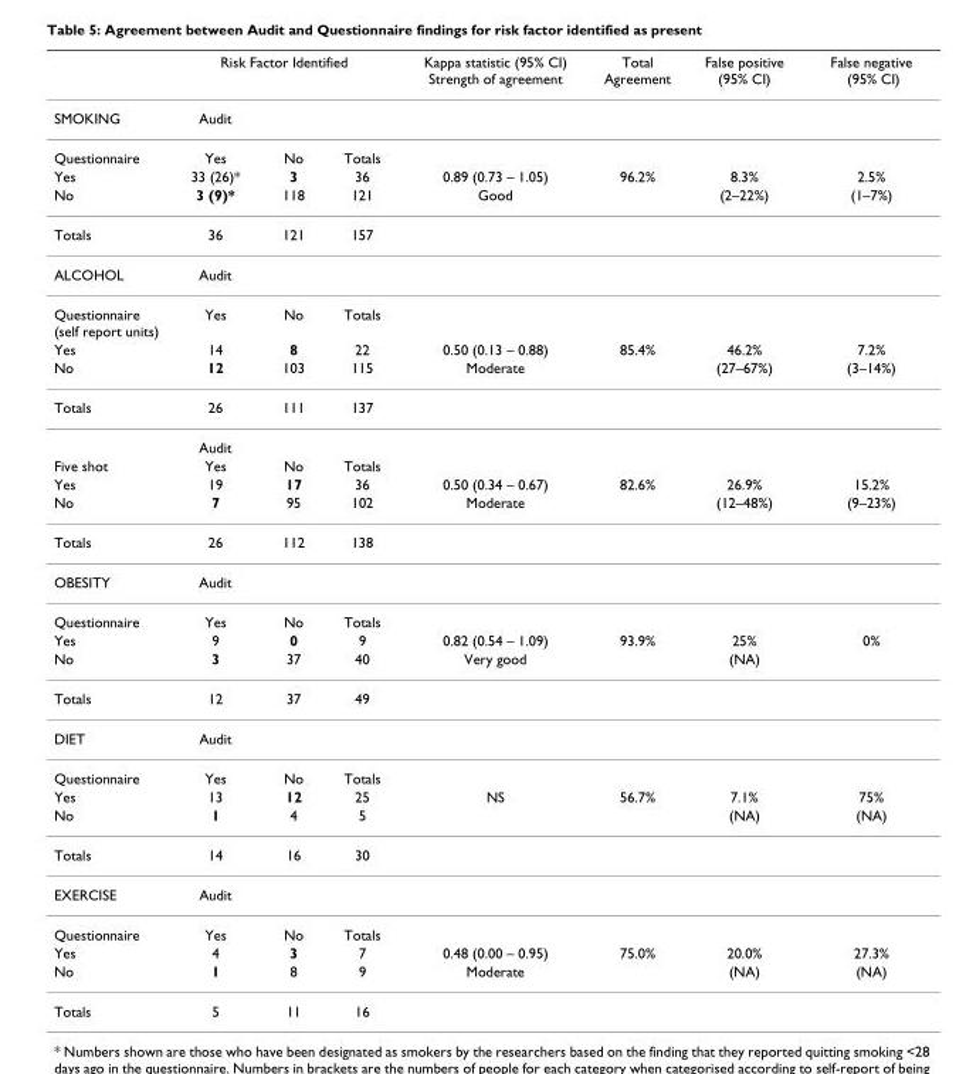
<table><thead><tr><td rowspan="2">SMOKING</td><td colspan="3">Risk Factor Identified</td><td rowspan="2">Kappa statistic (95% CI) Strength of agreement</td><td rowspan="2">Total Agreement</td><td rowspan="2">False positive (95% CI)</td><td rowspan="2">False negative (95% CI)</td></tr><tr><td>Audit</td><td></td><td></td></tr></thead><tbody><tr><td>Questionnaire</td><td>Yes</td><td>No</td><td>Totals</td><td></td><td></td><td></td><td></td></tr><tr><td>Yes</td><td>33 (26)*</td><td>3</td><td>36</td><td>0.89 (0.73 – 1.05)</td><td>96.2%</td><td>8.3%</td><td>2.5%</td></tr><tr><td>No</td><td>3 (9)*</td><td>118</td><td>121</td><td>Good</td><td></td><td>(2–22%)</td><td>(1–7%)</td></tr><tr><td>Totals</td><td>36</td><td>121</td><td>157</td><td></td><td></td><td></td><td></td></tr><tr><td>ALCOHOL</td><td>Audit</td><td></td><td></td><td></td><td></td><td></td><td></td></tr><tr><td>Questionnaire (self report units)</td><td>Yes</td><td>No</td><td>Totals</td><td></td><td></td><td></td><td></td></tr><tr><td>Yes</td><td>14</td><td>8</td><td>22</td><td>0.50 (0.13 – 0.88)</td><td>85.4%</td><td>46.2%</td><td>7.2%</td></tr><tr><td>No</td><td>12</td><td>103</td><td>115</td><td>Moderate</td><td></td><td>(27–67%)</td><td>(3–14%)</td></tr><tr><td rowspan="2">Totals</td><td>26</td><td>111</td><td>137</td><td></td><td></td><td></td><td></td></tr><tr><td>Audit</td><td></td><td></td><td></td><td></td><td></td><td></td></tr><tr><td>Five shot</td><td>Yes</td><td>No</td><td>Totals</td><td></td><td></td><td></td><td></td></tr><tr><td>Yes</td><td>19</td><td>17</td><td>36</td><td>0.50 (0.34 – 0.67)</td><td>82.6%</td><td>26.9%</td><td>15.2%</td></tr><tr><td>No</td><td>7</td><td>95</td><td>102</td><td>Moderate</td><td></td><td>(12–48%)</td><td>(9–23%)</td></tr><tr><td>Totals</td><td>26</td><td>112</td><td>138</td><td></td><td></td><td></td><td></td></tr><tr><td>OBESITY</td><td>Audit</td><td></td><td></td><td></td><td></td><td></td><td></td></tr><tr><td>Questionnaire</td><td>Yes</td><td>No</td><td>Totals</td><td></td><td></td><td></td><td></td></tr><tr><td>Yes</td><td>9</td><td>0</td><td>9</td><td>0.82 (0.54 – 1.09)</td><td>93.9%</td><td>25%</td><td>0%</td></tr><tr><td>No</td><td>3</td><td>37</td><td>40</td><td>Very good</td><td></td><td>(NA)</td><td></td></tr><tr><td>Totals</td><td>12</td><td>37</td><td>49</td><td></td><td></td><td></td><td></td></tr><tr><td>DIET</td><td>Audit</td><td></td><td></td><td></td><td></td><td></td><td></td></tr><tr><td>Questionnaire</td><td>Yes</td><td>No</td><td>Totals</td><td></td><td></td><td></td><td></td></tr><tr><td>Yes</td><td>13</td><td>12</td><td>25</td><td>NS</td><td>56.7%</td><td>7.1%</td><td>75%</td></tr><tr><td>No</td><td>1</td><td>4</td><td>5</td><td></td><td></td><td>(NA)</td><td>(NA)</td></tr><tr><td>Totals</td><td>14</td><td>16</td><td>30</td><td></td><td></td><td></td><td></td></tr><tr><td>EXERCISE</td><td>Audit</td><td></td><td></td><td></td><td></td><td></td><td></td></tr><tr><td>Questionnaire</td><td>Yes</td><td>No</td><td>Totals</td><td></td><td></td><td></td><td></td></tr><tr><td>Yes</td><td>4</td><td>3</td><td>7</td><td>0.48 (0.00 – 0.95)</td><td>75.0%</td><td>20.0%</td><td>27.3%</td></tr><tr><td>No</td><td>1</td><td>8</td><td>9</td><td>Moderate</td><td></td><td>(NA)</td><td>(NA)</td></tr><tr><td>Totals</td><td>5</td><td>11</td><td>16</td><td></td><td></td><td></td><td></td></tr></tbody></table>